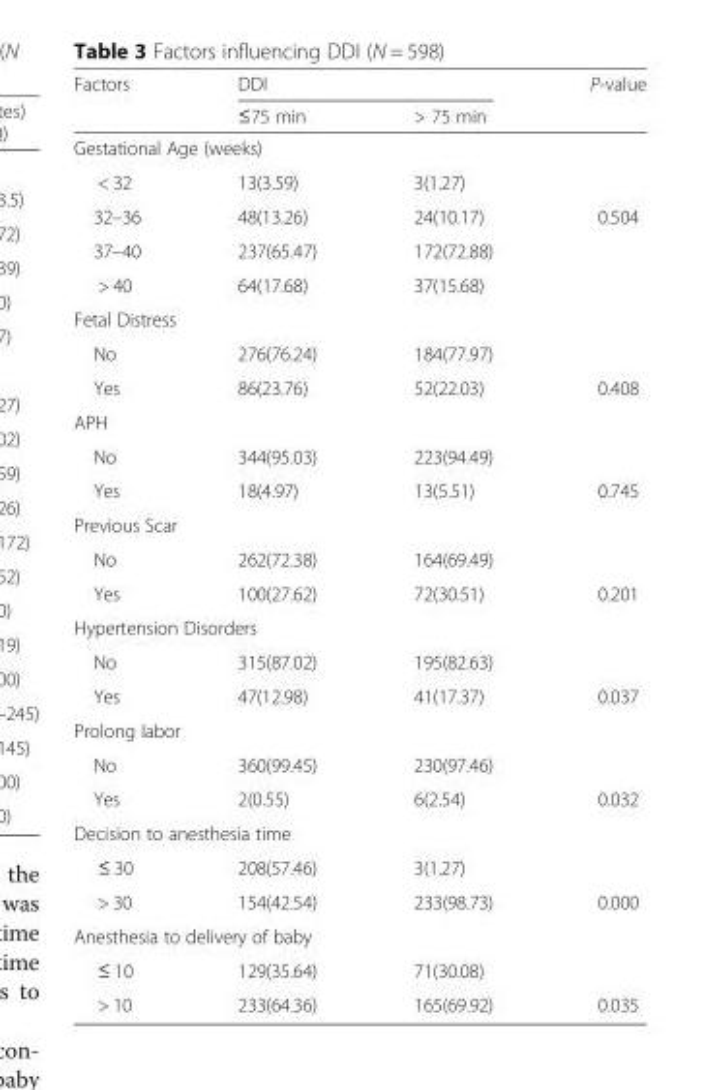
<table><thead><tr><td rowspan="2">Factors</td><td colspan="2">DDI</td><td rowspan="2">P-value</td></tr><tr><td>≤75 min</td><td>&gt; 75 min</td></tr></thead><tbody><tr><td colspan="4">Gestational Age (weeks)</td></tr><tr><td>&lt; 32</td><td>13(3.59)</td><td>3(1.27)</td><td></td></tr><tr><td>32–36</td><td>48(13.26)</td><td>24(10.17)</td><td>0.504</td></tr><tr><td>37–40</td><td>237(65.47)</td><td>172(72.88)</td><td></td></tr><tr><td>&gt; 40</td><td>64(17.68)</td><td>37(15.68)</td><td></td></tr><tr><td colspan="4">Fetal Distress</td></tr><tr><td>No</td><td>276(76.24)</td><td>184(77.97)</td><td></td></tr><tr><td>Yes</td><td>86(23.76)</td><td>52(22.03)</td><td>0.408</td></tr><tr><td colspan="4">APH</td></tr><tr><td>No</td><td>344(95.03)</td><td>223(94.49)</td><td></td></tr><tr><td>Yes</td><td>18(4.97)</td><td>13(5.51)</td><td>0.745</td></tr><tr><td colspan="4">Previous Scar</td></tr><tr><td>No</td><td>262(72.38)</td><td>164(69.49)</td><td></td></tr><tr><td>Yes</td><td>100(27.62)</td><td>72(30.51)</td><td>0.201</td></tr><tr><td colspan="4">Hypertension Disorders</td></tr><tr><td>No</td><td>315(87.02)</td><td>195(82.63)</td><td></td></tr><tr><td>Yes</td><td>47(12.98)</td><td>41(17.37)</td><td>0.037</td></tr><tr><td colspan="4">Prolong labor</td></tr><tr><td>No</td><td>360(99.45)</td><td>230(97.46)</td><td></td></tr><tr><td>Yes</td><td>2(0.55)</td><td>6(2.54)</td><td>0.032</td></tr><tr><td colspan="4">Decision to anesthesia time</td></tr><tr><td>≤ 30</td><td>208(57.46)</td><td>3(1.27)</td><td></td></tr><tr><td>&gt; 30</td><td>154(42.54)</td><td>233(98.73)</td><td>0.000</td></tr><tr><td colspan="4">Anesthesia to delivery of baby</td></tr><tr><td>≤ 10</td><td>129(35.64)</td><td>71(30.08)</td><td></td></tr><tr><td>&gt; 10</td><td>233(64.36)</td><td>165(69.92)</td><td>0.035</td></tr></tbody></table>